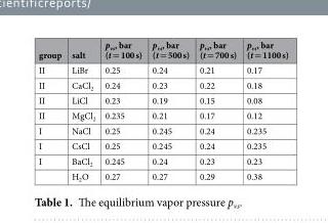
<table><thead><tr><td>group</td><td>salt</td><td>p<sub>vs</sub>, bar (t = 100 s)</td><td>p<sub>vs</sub>, bar (t = 500 s)</td><td>p<sub>vs</sub>, bar (t = 700 s)</td><td>p<sub>vs</sub>, bar (t = 1100 s)</td></tr></thead><tbody><tr><td>II</td><td>LiBr</td><td>0.25</td><td>0.24</td><td>0.21</td><td>0.17</td></tr><tr><td>II</td><td>CaCl<sub>2</sub></td><td>0.24</td><td>0.23</td><td>0.22</td><td>0.18</td></tr><tr><td>II</td><td>LiCl</td><td>0.23</td><td>0.19</td><td>0.15</td><td>0.08</td></tr><tr><td>II</td><td>MgCl<sub>2</sub></td><td>0.235</td><td>0.21</td><td>0.17</td><td>0.12</td></tr><tr><td>I</td><td>NaCl</td><td>0.25</td><td>0.245</td><td>0.24</td><td>0.235</td></tr><tr><td>I</td><td>CsCl</td><td>0.25</td><td>0.245</td><td>0.24</td><td>0.235</td></tr><tr><td rowspan="2">I</td><td>BaCl<sub>2</sub></td><td>0.245</td><td>0.24</td><td>0.23</td><td>0.23</td></tr><tr><td>H<sub>2</sub>O</td><td>0.27</td><td>0.27</td><td>0.29</td><td>0.38</td></tr></tbody></table>